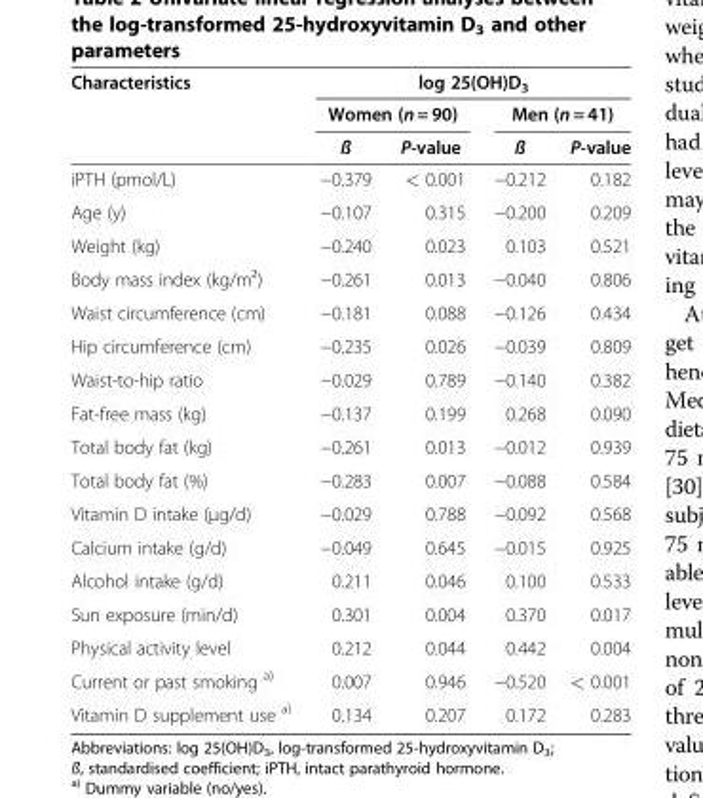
<table><thead><tr><td rowspan="3">Characteristics</td><td colspan="4">log 25(OH)D<sub>3</sub></td></tr><tr><td colspan="2">Women (n = 90)</td><td colspan="2">Men (n = 41)</td></tr><tr><td>ß</td><td>P-value</td><td>ß</td><td>P-value</td></tr></thead><tbody><tr><td>iPTH (pmol/L)</td><td>−0.379</td><td>&lt; 0.001</td><td>−0.212</td><td>0.182</td></tr><tr><td>Age (y)</td><td>−0.107</td><td>0.315</td><td>−0.200</td><td>0.209</td></tr><tr><td>Weight (kg)</td><td>−0.240</td><td>0.023</td><td>0.103</td><td>0.521</td></tr><tr><td>Body mass index (kg/m²)</td><td>−0.261</td><td>0.013</td><td>−0.040</td><td>0.806</td></tr><tr><td>Waist circumference (cm)</td><td>−0.181</td><td>0.088</td><td>−0.126</td><td>0.434</td></tr><tr><td>Hip circumference (cm)</td><td>−0.235</td><td>0.026</td><td>−0.039</td><td>0.809</td></tr><tr><td>Waist-to-hip ratio</td><td>−0.029</td><td>0.789</td><td>−0.140</td><td>0.382</td></tr><tr><td>Fat-free mass (kg)</td><td>−0.137</td><td>0.199</td><td>0.268</td><td>0.090</td></tr><tr><td>Total body fat (kg)</td><td>−0.261</td><td>0.013</td><td>−0.012</td><td>0.939</td></tr><tr><td>Total body fat (%)</td><td>−0.283</td><td>0.007</td><td>−0.088</td><td>0.584</td></tr><tr><td>Vitamin D intake (μg/d)</td><td>−0.029</td><td>0.788</td><td>−0.092</td><td>0.568</td></tr><tr><td>Calcium intake (g/d)</td><td>−0.049</td><td>0.645</td><td>−0.015</td><td>0.925</td></tr><tr><td>Alcohol intake (g/d)</td><td>0.211</td><td>0.046</td><td>0.100</td><td>0.533</td></tr><tr><td>Sun exposure (min/d)</td><td>0.301</td><td>0.004</td><td>0.370</td><td>0.017</td></tr><tr><td>Physical activity level</td><td>0.212</td><td>0.044</td><td>0.442</td><td>0.004</td></tr><tr><td>Current or past smoking <sup>a)</sup></td><td>0.007</td><td>0.946</td><td>−0.520</td><td>&lt; 0.001</td></tr><tr><td>Vitamin D supplement use <sup>a)</sup></td><td>0.134</td><td>0.207</td><td>0.172</td><td>0.283</td></tr></tbody></table>